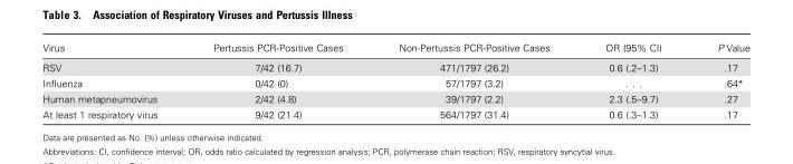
<table><thead><tr><td>Virus</td><td>Pertussis PCR-Positive Cases</td><td>Non-Pertussis PCR-Positive Cases</td><td>OR (95% CI)</td><td>P Value</td></tr></thead><tbody><tr><td>RSV</td><td>7/42 (16.7)</td><td>471/1797 (26.2)</td><td>0.6 (.2–1.3)</td><td>.17</td></tr><tr><td>Influenza</td><td>0/42 (0)</td><td>57/1797 (3.2)</td><td>. . .</td><td>.64*</td></tr><tr><td>Human metapneumovirus</td><td>2/42 (4.8)</td><td>39/1797 (2.2)</td><td>2.3 (.5–9.7)</td><td>.27</td></tr><tr><td>At least 1 respiratory virus</td><td>9/42 (21.4)</td><td>564/1797 (31.4)</td><td>0.6 (.3–1.3)</td><td>.17</td></tr></tbody></table>